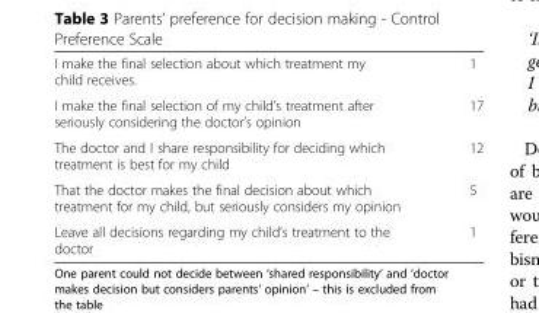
<table><tbody><tr><td>I make the final selection about which treatment my child receives.</td><td>1</td></tr><tr><td>I make the final selection of my child’s treatment after seriously considering the doctor’s opinion</td><td>17</td></tr><tr><td>The doctor and I share responsibility for deciding which treatment is best for my child</td><td>12</td></tr><tr><td>That the doctor makes the final decision about which treatment for my child, but seriously considers my opinion</td><td>5</td></tr><tr><td>Leave all decisions regarding my child’s treatment to the doctor</td><td>1</td></tr></tbody></table>